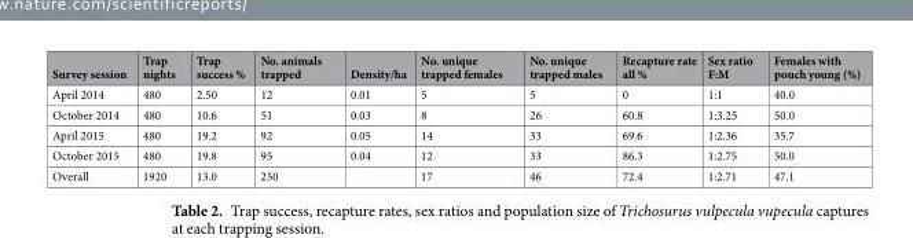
<table><thead><tr><td>Survey session</td><td>Trap nights</td><td>Trap success %</td><td>No. animals trapped</td><td>Density/ha</td><td>No. unique trapped females</td><td>No. unique trapped males</td><td>Recapture rate all %</td><td>Sex ratio F:M</td><td>Females with pouch young (%)</td></tr></thead><tbody><tr><td>April 2014</td><td>480</td><td>2.50</td><td>12</td><td>0.01</td><td>5</td><td>5</td><td>0</td><td>1:1</td><td>40.0</td></tr><tr><td>October 2014</td><td>480</td><td>10.6</td><td>51</td><td>0.03</td><td>8</td><td>26</td><td>60.8</td><td>1:3.25</td><td>50.0</td></tr><tr><td>April 2015</td><td>480</td><td>19.2</td><td>92</td><td>0.05</td><td>14</td><td>33</td><td>69.6</td><td>1:2.36</td><td>35.7</td></tr><tr><td>October 2015</td><td>480</td><td>19.8</td><td>95</td><td>0.04</td><td>12</td><td>33</td><td>86.3</td><td>1:2.75</td><td>50.0</td></tr><tr><td>Overall</td><td>1920</td><td>13.0</td><td>250</td><td></td><td>17</td><td>46</td><td>72.4</td><td>1:2.71</td><td>47.1</td></tr></tbody></table>